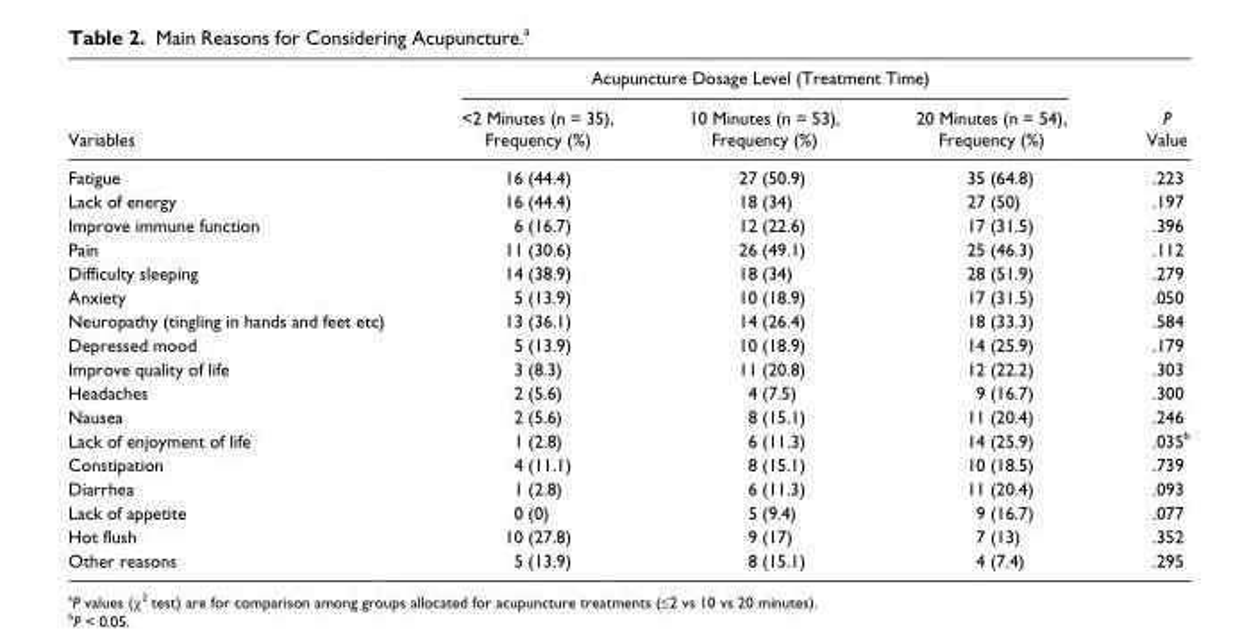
<table><thead><tr><td rowspan="2">Variables</td><td colspan="3">Acupuncture Dosage Level (Treatment Time)</td><td rowspan="2">P Value</td></tr><tr><td>&lt;2 Minutes (n = 35), Frequency (%)</td><td>10 Minutes (n = 53), Frequency (%)</td><td>20 Minutes (n = 54), Frequency (%)</td></tr></thead><tbody><tr><td>Fatigue</td><td>16 (44.4)</td><td>27 (50.9)</td><td>35 (64.8)</td><td>.223</td></tr><tr><td>Lack of energy</td><td>16 (44.4)</td><td>18 (34)</td><td>27 (50)</td><td>.197</td></tr><tr><td>Improve immune function</td><td>6 (16.7)</td><td>12 (22.6)</td><td>17 (31.5)</td><td>.396</td></tr><tr><td>Pain</td><td>11 (30.6)</td><td>26 (49.1)</td><td>25 (46.3)</td><td>.112</td></tr><tr><td>Difficulty sleeping</td><td>14 (38.9)</td><td>18 (34)</td><td>28 (51.9)</td><td>.279</td></tr><tr><td>Anxiety</td><td>5 (13.9)</td><td>10 (18.9)</td><td>17 (31.5)</td><td>.050</td></tr><tr><td>Neuropathy (tingling in hands and feet etc)</td><td>13 (36.1)</td><td>14 (26.4)</td><td>18 (33.3)</td><td>.584</td></tr><tr><td>Depressed mood</td><td>5 (13.9)</td><td>10 (18.9)</td><td>14 (25.9)</td><td>.179</td></tr><tr><td>Improve quality of life</td><td>3 (8.3)</td><td>11 (20.8)</td><td>12 (22.2)</td><td>.303</td></tr><tr><td>Headaches</td><td>2 (5.6)</td><td>4 (7.5)</td><td>9 (16.7)</td><td>.300</td></tr><tr><td>Nausea</td><td>2 (5.6)</td><td>8 (15.1)</td><td>11 (20.4)</td><td>.246</td></tr><tr><td>Lack of enjoyment of life</td><td>1 (2.8)</td><td>6 (11.3)</td><td>14 (25.9)</td><td>.035<sup>b</sup></td></tr><tr><td>Constipation</td><td>4 (11.1)</td><td>8 (15.1)</td><td>10 (18.5)</td><td>.739</td></tr><tr><td>Diarrhea</td><td>1 (2.8)</td><td>6 (11.3)</td><td>11 (20.4)</td><td>.093</td></tr><tr><td>Lack of appetite</td><td>0 (0)</td><td>5 (9.4)</td><td>9 (16.7)</td><td>.077</td></tr><tr><td>Hot flush</td><td>10 (27.8)</td><td>9 (17)</td><td>7 (13)</td><td>.352</td></tr><tr><td>Other reasons</td><td>5 (13.9)</td><td>8 (15.1)</td><td>4 (7.4)</td><td>.295</td></tr></tbody></table>